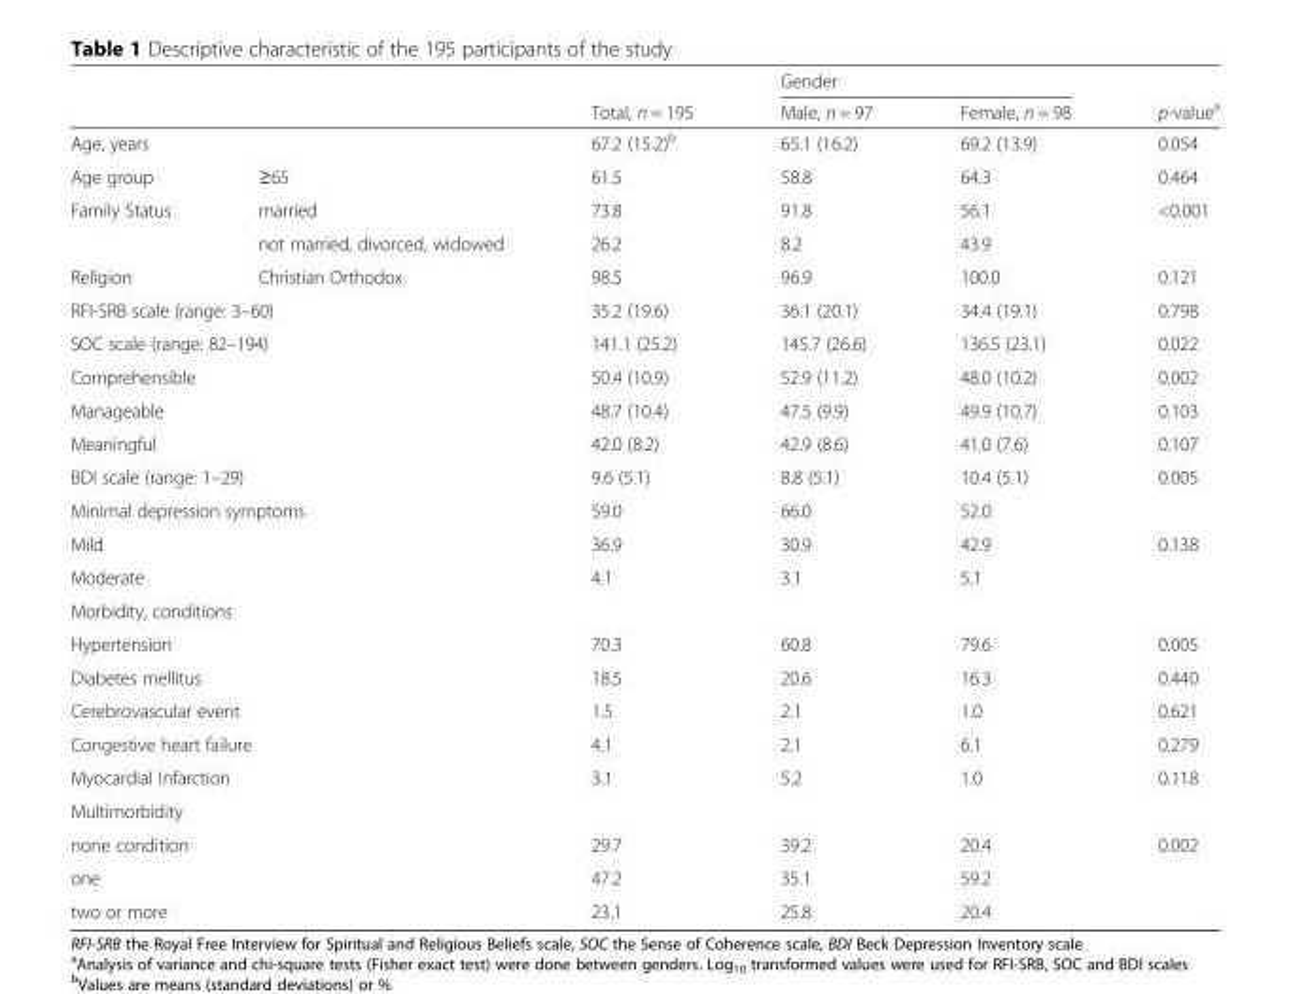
<table><thead><tr><td rowspan="2"></td><td rowspan="2"></td><td rowspan="2">Total, n = 195</td><td colspan="2">Gender</td><td rowspan="2">p-value<sup>a</sup></td></tr><tr><td>Male, n = 97</td><td>Female, n = 98</td></tr></thead><tbody><tr><td>Age, years</td><td></td><td>67.2 (15.2)<sup>b</sup></td><td>65.1 (16.2)</td><td>69.2 (13.9)</td><td>0.054</td></tr><tr><td>Age group</td><td>≥65</td><td>61.5</td><td>58.8</td><td>64.3</td><td>0.464</td></tr><tr><td rowspan="2">Family Status</td><td>married</td><td>73.8</td><td>91.8</td><td>56.1</td><td rowspan="2">&lt;0.001</td></tr><tr><td>not married, divorced, widowed</td><td>26.2</td><td>8.2</td><td>43.9</td></tr><tr><td>Religion</td><td>Christian Orthodox</td><td>98.5</td><td>96.9</td><td>100.0</td><td>0.121</td></tr><tr><td colspan="2">RFI-SRB scale (range: 3–60)</td><td>35.2 (19.6)</td><td>36.1 (20.1)</td><td>34.4 (19.1)</td><td>0.798</td></tr><tr><td colspan="2">SOC scale (range: 82–194)</td><td>141.1 (25.2)</td><td>145.7 (26.6)</td><td>136.5 (23.1)</td><td>0.022</td></tr><tr><td colspan="2">Comprehensible</td><td>50.4 (10.9)</td><td>52.9 (11.2)</td><td>48.0 (10.2)</td><td>0.002</td></tr><tr><td colspan="2">Manageable</td><td>48.7 (10.4)</td><td>47.5 (9.9)</td><td>49.9 (10.7)</td><td>0.103</td></tr><tr><td colspan="2">Meaningful</td><td>42.0 (8.2)</td><td>42.9 (8.6)</td><td>41.0 (7.6)</td><td>0.107</td></tr><tr><td colspan="2">BDI scale (range: 1–29)</td><td>9.6 (5.1)</td><td>8.8 (5.1)</td><td>10.4 (5.1)</td><td>0.005</td></tr><tr><td colspan="2">Minimal depression symptoms</td><td>59.0</td><td>66.0</td><td>52.0</td><td></td></tr><tr><td colspan="2">Mild</td><td>36.9</td><td>30.9</td><td>42.9</td><td>0.138</td></tr><tr><td colspan="2">Moderate</td><td>4.1</td><td>3.1</td><td>5.1</td><td></td></tr><tr><td colspan="6">Morbidity, conditions</td></tr><tr><td colspan="2">Hypertension</td><td>70.3</td><td>60.8</td><td>79.6</td><td>0.005</td></tr><tr><td colspan="2">Diabetes mellitus</td><td>18.5</td><td>20.6</td><td>16.3</td><td>0.440</td></tr><tr><td colspan="2">Cerebrovascular event</td><td>1.5</td><td>2.1</td><td>1.0</td><td>0.621</td></tr><tr><td colspan="2">Congestive heart failure</td><td>4.1</td><td>2.1</td><td>6.1</td><td>0.279</td></tr><tr><td colspan="2">Myocardial Infarction</td><td>3.1</td><td>5.2</td><td>1.0</td><td>0.118</td></tr><tr><td colspan="6">Multimorbidity</td></tr><tr><td colspan="2">none condition</td><td>29.7</td><td>39.2</td><td>20.4</td><td rowspan="3">0.002</td></tr><tr><td colspan="2">one</td><td>47.2</td><td>35.1</td><td>59.2</td></tr><tr><td colspan="2">two or more</td><td>23.1</td><td>25.8</td><td>20.4</td></tr></tbody></table>